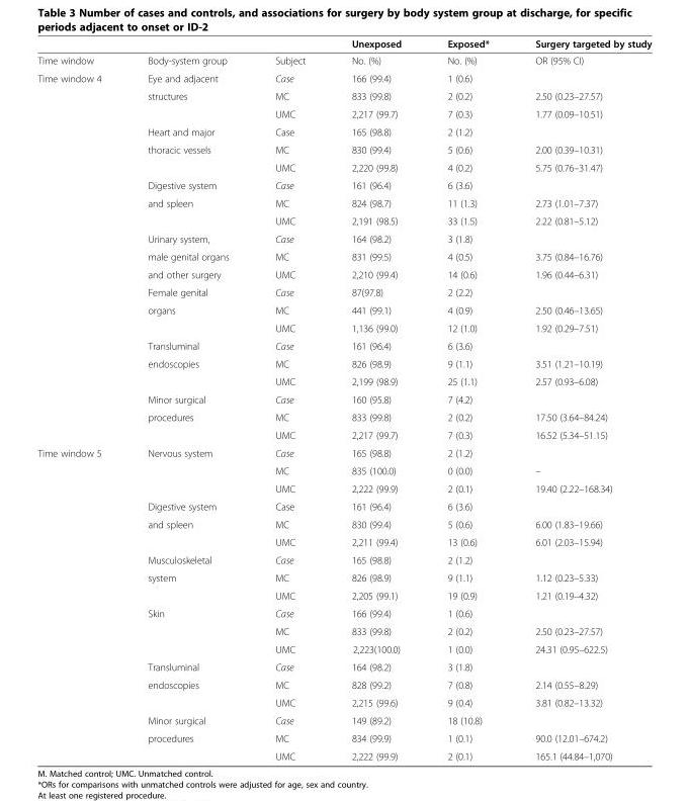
<table><thead><tr><td></td><td></td><td></td><td>Unexposed</td><td>Exposed*</td><td>Surgery targeted by study</td></tr></thead><tbody><tr><td>Time window</td><td>Body-system group</td><td>Subject</td><td>No. (%)</td><td>No. (%)</td><td>OR (95% CI)</td></tr><tr><td rowspan="21">Time window 4</td><td>Eye and adjacent</td><td>Case</td><td>166 (99.4)</td><td>1 (0.6)</td><td></td></tr><tr><td>structures</td><td>MC</td><td>833 (99.8)</td><td>2 (0.2)</td><td>2.50 (0.23–27.57)</td></tr><tr><td></td><td>UMC</td><td>2,217 (99.7)</td><td>7 (0.3)</td><td>1.77 (0.09–10.51)</td></tr><tr><td>Heart and major</td><td>Case</td><td>165 (98.8)</td><td>2 (1.2)</td><td></td></tr><tr><td>thoracic vessels</td><td>MC</td><td>830 (99.4)</td><td>5 (0.6)</td><td>2.00 (0.39–10.31)</td></tr><tr><td></td><td>UMC</td><td>2,220 (99.8)</td><td>4 (0.2)</td><td>5.75 (0.76–31.47)</td></tr><tr><td>Digestive system</td><td>Case</td><td>161 (96.4)</td><td>6 (3.6)</td><td></td></tr><tr><td>and spleen</td><td>MC</td><td>824 (98.7)</td><td>11 (1.3)</td><td>2.73 (1.01–7.37)</td></tr><tr><td></td><td>UMC</td><td>2,191 (98.5)</td><td>33 (1.5)</td><td>2.22 (0.81–5.12)</td></tr><tr><td>Urinary system,</td><td>Case</td><td>164 (98.2)</td><td>3 (1.8)</td><td></td></tr><tr><td>male genital organs</td><td>MC</td><td>831 (99.5)</td><td>4 (0.5)</td><td>3.75 (0.84–16.76)</td></tr><tr><td>and other surgery</td><td>UMC</td><td>2,210 (99.4)</td><td>14 (0.6)</td><td>1.96 (0.44–6.31)</td></tr><tr><td>Female genital</td><td>Case</td><td>87(97.8)</td><td>2 (2.2)</td><td></td></tr><tr><td>organs</td><td>MC</td><td>441 (99.1)</td><td>4 (0.9)</td><td>2.50 (0.46–13.65)</td></tr><tr><td></td><td>UMC</td><td>1,136 (99.0)</td><td>12 (1.0)</td><td>1.92 (0.29–7.51)</td></tr><tr><td>Transluminal</td><td>Case</td><td>161 (96.4)</td><td>6 (3.6)</td><td></td></tr><tr><td>endoscopies</td><td>MC</td><td>826 (98.9)</td><td>9 (1.1)</td><td>3.51 (1.21–10.19)</td></tr><tr><td></td><td>UMC</td><td>2,199 (98.9)</td><td>25 (1.1)</td><td>2.57 (0.93–6.08)</td></tr><tr><td>Minor surgical</td><td>Case</td><td>160 (95.8)</td><td>7 (4.2)</td><td></td></tr><tr><td>procedures</td><td>MC</td><td>833 (99.8)</td><td>2 (0.2)</td><td>17.50 (3.64–84.24)</td></tr><tr><td></td><td>UMC</td><td>2,217 (99.7)</td><td>7 (0.3)</td><td>16.52 (5.34–51.15)</td></tr><tr><td rowspan="18">Time window 5</td><td>Nervous system</td><td>Case</td><td>165 (98.8)</td><td>2 (1.2)</td><td></td></tr><tr><td></td><td>MC</td><td>835 (100.0)</td><td>0 (0.0)</td><td>–</td></tr><tr><td></td><td>UMC</td><td>2,222 (99.9)</td><td>2 (0.1)</td><td>19.40 (2.22–168.34)</td></tr><tr><td>Digestive system</td><td>Case</td><td>161 (96.4)</td><td>6 (3.6)</td><td></td></tr><tr><td>and spleen</td><td>MC</td><td>830 (99.4)</td><td>5 (0.6)</td><td>6.00 (1.83–19.66)</td></tr><tr><td></td><td>UMC</td><td>2,211 (99.4)</td><td>13 (0.6)</td><td>6.01 (2.03–15.94)</td></tr><tr><td>Musculoskeletal</td><td>Case</td><td>165 (98.8)</td><td>2 (1.2)</td><td></td></tr><tr><td>system</td><td>MC</td><td>826 (98.9)</td><td>9 (1.1)</td><td>1.12 (0.23–5.33)</td></tr><tr><td></td><td>UMC</td><td>2,205 (99.1)</td><td>19 (0.9)</td><td>1.21 (0.19–4.32)</td></tr><tr><td>Skin</td><td>Case</td><td>166 (99.4)</td><td>1 (0.6)</td><td></td></tr><tr><td></td><td>MC</td><td>833 (99.8)</td><td>2 (0.2)</td><td>2.50 (0.23–27.57)</td></tr><tr><td></td><td>UMC</td><td>2,223(100.0)</td><td>1 (0.0)</td><td>24.31 (0.95–622.5)</td></tr><tr><td>Transluminal</td><td>Case</td><td>164 (98.2)</td><td>3 (1.8)</td><td></td></tr><tr><td>endoscopies</td><td>MC</td><td>828 (99.2)</td><td>7 (0.8)</td><td>2.14 (0.55–8.29)</td></tr><tr><td></td><td>UMC</td><td>2,215 (99.6)</td><td>9 (0.4)</td><td>3.81 (0.82–13.32)</td></tr><tr><td>Minor surgical</td><td>Case</td><td>149 (89.2)</td><td>18 (10.8)</td><td></td></tr><tr><td>procedures</td><td>MC</td><td>834 (99.9)</td><td>1 (0.1)</td><td>90.0 (12.01–674.2)</td></tr><tr><td></td><td>UMC</td><td>2,222 (99.9)</td><td>2 (0.1)</td><td>165.1 (44.84–1,070)</td></tr></tbody></table>